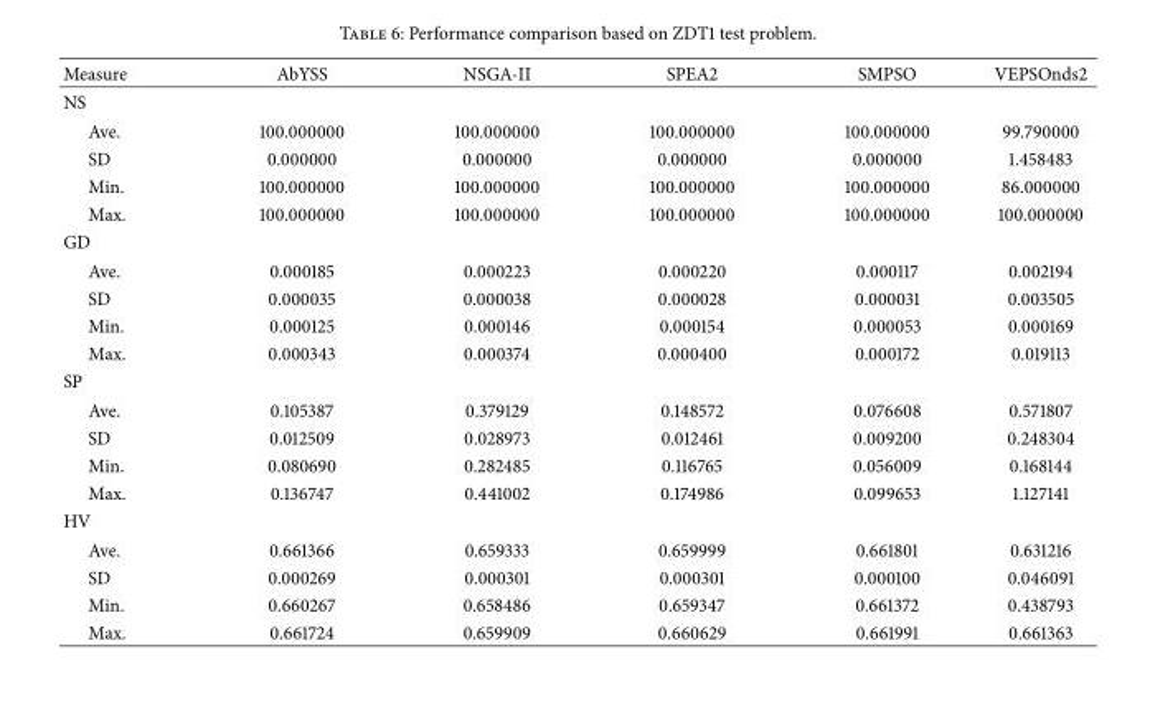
<table><thead><tr><td>Measure</td><td>AbYSS</td><td>NSGA-II</td><td>SPEA2</td><td>SMPSO</td><td>VEPSOnds2</td></tr></thead><tbody><tr><td colspan="6">NS</td></tr><tr><td>Ave.</td><td>100.000000</td><td>100.000000</td><td>100.000000</td><td>100.000000</td><td>99.790000</td></tr><tr><td>SD</td><td>0.000000</td><td>0.000000</td><td>0.000000</td><td>0.000000</td><td>1.458483</td></tr><tr><td>Min.</td><td>100.000000</td><td>100.000000</td><td>100.000000</td><td>100.000000</td><td>86.000000</td></tr><tr><td>Max.</td><td>100.000000</td><td>100.000000</td><td>100.000000</td><td>100.000000</td><td>100.000000</td></tr><tr><td colspan="6">GD</td></tr><tr><td>Ave.</td><td>0.000185</td><td>0.000223</td><td>0.000220</td><td>0.000117</td><td>0.002194</td></tr><tr><td>SD</td><td>0.000035</td><td>0.000038</td><td>0.000028</td><td>0.000031</td><td>0.003505</td></tr><tr><td>Min.</td><td>0.000125</td><td>0.000146</td><td>0.000154</td><td>0.000053</td><td>0.000169</td></tr><tr><td>Max.</td><td>0.000343</td><td>0.000374</td><td>0.000400</td><td>0.000172</td><td>0.019113</td></tr><tr><td colspan="6">SP</td></tr><tr><td>Ave.</td><td>0.105387</td><td>0.379129</td><td>0.148572</td><td>0.076608</td><td>0.571807</td></tr><tr><td>SD</td><td>0.012509</td><td>0.028973</td><td>0.012461</td><td>0.009200</td><td>0.248304</td></tr><tr><td>Min.</td><td>0.080690</td><td>0.282485</td><td>0.116765</td><td>0.056009</td><td>0.168144</td></tr><tr><td>Max.</td><td>0.136747</td><td>0.441002</td><td>0.174986</td><td>0.099653</td><td>1.127141</td></tr><tr><td colspan="6">HV</td></tr><tr><td>Ave.</td><td>0.661366</td><td>0.659333</td><td>0.659999</td><td>0.661801</td><td>0.631216</td></tr><tr><td>SD</td><td>0.000269</td><td>0.000301</td><td>0.000301</td><td>0.000100</td><td>0.046091</td></tr><tr><td>Min.</td><td>0.660267</td><td>0.658486</td><td>0.659347</td><td>0.661372</td><td>0.438793</td></tr><tr><td>Max.</td><td>0.661724</td><td>0.659909</td><td>0.660629</td><td>0.661991</td><td>0.661363</td></tr></tbody></table>